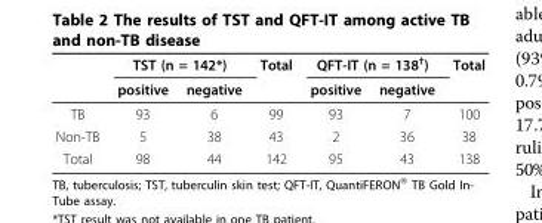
<table><thead><tr><td rowspan="2"></td><td colspan="2">TST (n = 142*)</td><td rowspan="2">Total</td><td colspan="2">QFT-IT (n = 138<sup>†</sup>)</td><td rowspan="2">Total</td></tr><tr><td>positive</td><td>negative</td><td>positive</td><td>negative</td></tr></thead><tbody><tr><td>TB</td><td>93</td><td>6</td><td>99</td><td>93</td><td>7</td><td>100</td></tr><tr><td>Non-TB</td><td>5</td><td>38</td><td>43</td><td>2</td><td>36</td><td>38</td></tr><tr><td>Total</td><td>98</td><td>44</td><td>142</td><td>95</td><td>43</td><td>138</td></tr></tbody></table>